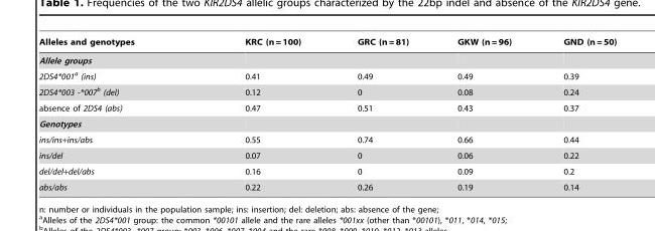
<table><thead><tr><td>Alleles and genotypes</td><td>KRC (n = 100)</td><td>GRC (n = 81)</td><td>GKW (n = 96)</td><td>GND (n = 50)</td></tr></thead><tbody><tr><td colspan="5">Allele groups</td></tr><tr><td>2DS4*001a (ins)</td><td>0.41</td><td>0.49</td><td>0.49</td><td>0.39</td></tr><tr><td>2DS4*003 -*007b (del)</td><td>0.12</td><td>0</td><td>0.08</td><td>0.24</td></tr><tr><td>absence of 2DS4 (abs)</td><td>0.47</td><td>0.51</td><td>0.43</td><td>0.37</td></tr><tr><td colspan="5">Genotypes</td></tr><tr><td>ins/ins+ins/abs</td><td>0.55</td><td>0.74</td><td>0.66</td><td>0.44</td></tr><tr><td>ins/del</td><td>0.07</td><td>0</td><td>0.06</td><td>0.22</td></tr><tr><td>del/del+del/abs</td><td>0.16</td><td>0</td><td>0.09</td><td>0.2</td></tr><tr><td>abs/abs</td><td>0.22</td><td>0.26</td><td>0.19</td><td>0.14</td></tr></tbody></table>